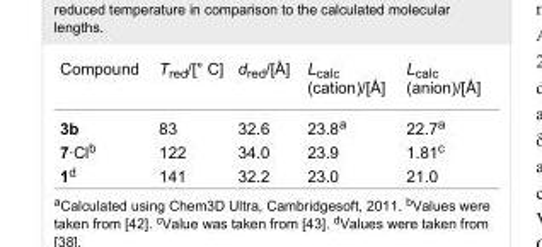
<table><tbody><tr><td>Compound</td><td>T<sub>red</sub>/[° C]</td><td>d<sub>red</sub>/[Å]</td><td>L<sub>calc</sub> (cation)/[Å]</td><td>L<sub>calc</sub> (anion)/[Å]</td></tr><tr><td>3b</td><td>83</td><td>32.6</td><td>23.8<sup>a</sup></td><td>22.7<sup>a</sup></td></tr><tr><td>7∙Cl<sup>b</sup></td><td>122</td><td>34.0</td><td>23.9</td><td>1.81<sup>c</sup></td></tr><tr><td>1<sup>d</sup></td><td>141</td><td>32.2</td><td>23.0</td><td>21.0</td></tr></tbody></table>